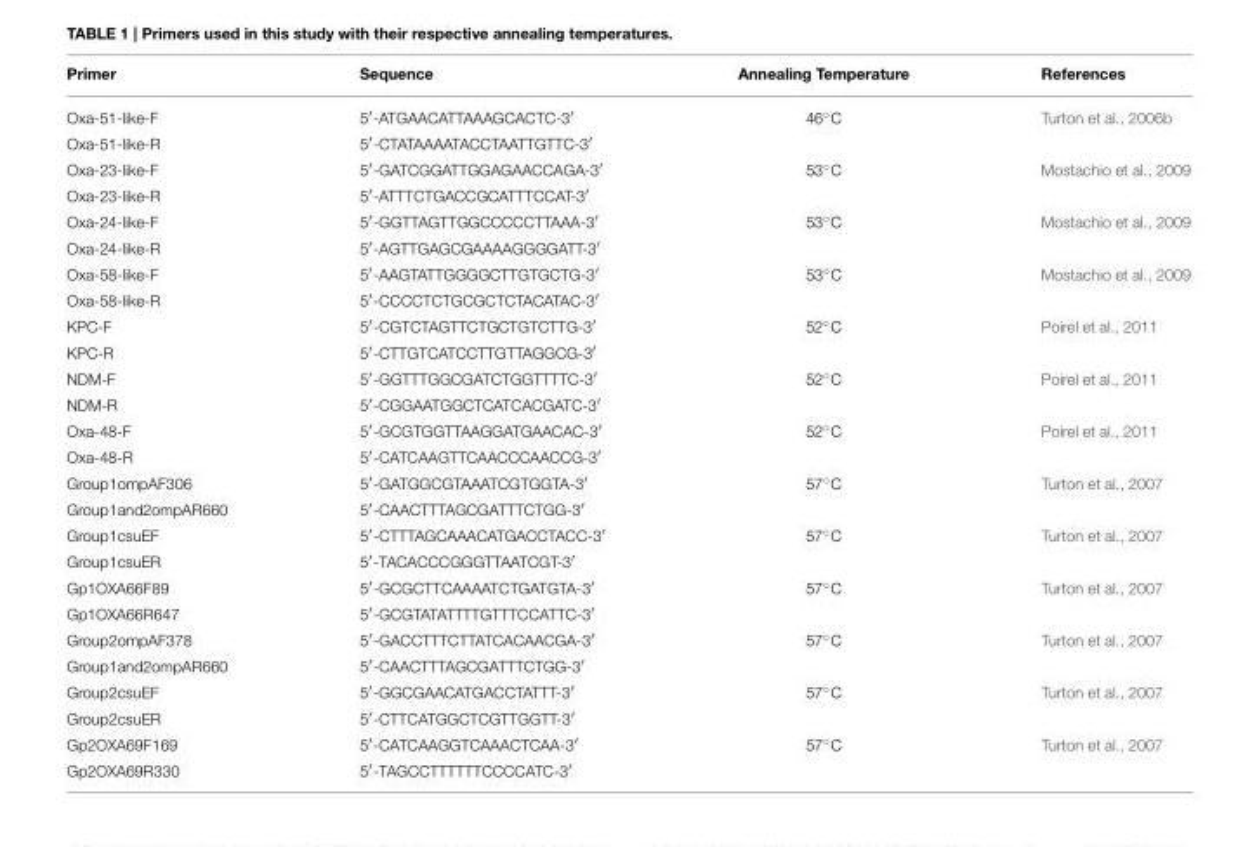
<table><thead><tr><td>Primer</td><td>Sequence</td><td>Annealing Temperature</td><td>References</td></tr></thead><tbody><tr><td>Oxa-51-like-F</td><td>5′-ATGAACATTAAAGCACTC-3′</td><td>46◦C</td><td>Turton et al., 2006b</td></tr><tr><td>Oxa-51-like-R</td><td>5′-CTATAAAATACCTAATTGTTC-3′</td><td></td><td></td></tr><tr><td>Oxa-23-like-F</td><td>5′-GATCGGATTGGAGAACCAGA-3′</td><td>53◦C</td><td>Mostachio et al., 2009</td></tr><tr><td>Oxa-23-like-R</td><td>5′-ATTTCTGACCGCATTTCCAT-3′</td><td></td><td></td></tr><tr><td>Oxa-24-like-F</td><td>5′-GGTTAGTTGGCCCCCTTAAA-3′</td><td>53◦C</td><td>Mostachio et al., 2009</td></tr><tr><td>Oxa-24-like-R</td><td>5′-AGTTGAGCGAAAAGGGGATT-3′</td><td></td><td></td></tr><tr><td>Oxa-58-like-F</td><td>5′-AAGTATTGGGGCTTGTGCTG-3′</td><td>53◦C</td><td>Mostachio et al., 2009</td></tr><tr><td>Oxa-58-like-R</td><td>5′-CCCCTCTGCGCTCTACATAC-3′</td><td></td><td></td></tr><tr><td>KPC-F</td><td>5′-CGTCTAGTTCTGCTGTCTTG-3′</td><td>52◦C</td><td>Poirel et al., 2011</td></tr><tr><td>KPC-R</td><td>5′-CTTGTCATCCTTGTTAGGCG-3′</td><td></td><td></td></tr><tr><td>NDM-F</td><td>5′-GGTTTGGCGATCTGGTTTTC-3′</td><td>52◦C</td><td>Poirel et al., 2011</td></tr><tr><td>NDM-R</td><td>5′-CGGAATGGCTCATCACGATC-3′</td><td></td><td></td></tr><tr><td>Oxa-48-F</td><td>5′-GCGTGGTTAAGGATGAACAC-3′</td><td>52◦C</td><td>Poirel et al., 2011</td></tr><tr><td>Oxa-48-R</td><td>5′-CATCAAGTTCAACCCAACCG-3′</td><td></td><td></td></tr><tr><td>Group1ompAF306</td><td>5′-GATGGCGTAAATCGTGGTA-3′</td><td>57◦C</td><td>Turton et al., 2007</td></tr><tr><td>Group1and2ompAR660</td><td>5′-CAACTTTAGCGATTTCTGG-3′</td><td></td><td></td></tr><tr><td>Group1csuEF</td><td>5′-CTTTAGCAAACATGACCTACC-3′</td><td>57◦C</td><td>Turton et al., 2007</td></tr><tr><td>Group1csuER</td><td>5′-TACACCCGGGTTAATCGT-3′</td><td></td><td></td></tr><tr><td>Gp1OXA66F89</td><td>5′-GCGCTTCAAAATCTGATGTA-3′</td><td>57◦C</td><td>Turton et al., 2007</td></tr><tr><td>Gp1OXA66R647</td><td>5′-GCGTATATTTTGTTTCCATTC-3′</td><td></td><td></td></tr><tr><td>Group2ompAF378</td><td>5′-GACCTTTCTTATCACAACGA-3′</td><td>57◦C</td><td>Turton et al., 2007</td></tr><tr><td>Group1and2ompAR660</td><td>5′-CAACTTTAGCGATTTCTGG-3′</td><td></td><td></td></tr><tr><td>Group2csuEF</td><td>5′-GGCGAACATGACCTATTT-3′</td><td>57◦C</td><td>Turton et al., 2007</td></tr><tr><td>Group2csuER</td><td>5′-CTTCATGGCTCGTTGGTT-3′</td><td></td><td></td></tr><tr><td>Gp2OXA69F169</td><td>5′-CATCAAGGTCAAACTCAA-3′</td><td>57◦C</td><td>Turton et al., 2007</td></tr><tr><td>Gp2OXA69R330</td><td>5′-TAGCCTTTTTTCCCCATC-3′</td><td></td><td></td></tr></tbody></table>